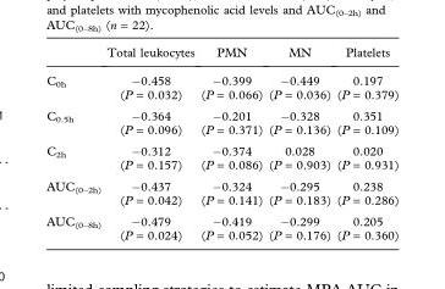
<table><thead><tr><td></td><td>Total leukocytes</td><td>PMN</td><td>MN</td><td>Platelets</td></tr></thead><tbody><tr><td>C<sub>0h</sub></td><td>−0.458 (P = 0.032)</td><td>−0.399 (P = 0.066)</td><td>−0.449 (P = 0.036)</td><td>0.197 (P = 0.379)</td></tr><tr><td>C<sub>0.5h</sub></td><td>−0.364 (P = 0.096)</td><td>−0.201 (P = 0.371)</td><td>−0.328 (P = 0.136)</td><td>0.351 (P = 0.109)</td></tr><tr><td>C<sub>2h</sub></td><td>−0.312 (P = 0.157)</td><td>−0.374 (P = 0.086)</td><td>0.028 (P = 0.903)</td><td>0.020 (P = 0.931)</td></tr><tr><td>AUC<sub>(0–2h)</sub></td><td>−0.437 (P = 0.042)</td><td>−0.324 (P = 0.141)</td><td>−0.295 (P = 0.183)</td><td>0.238 (P = 0.286)</td></tr><tr><td>AUC<sub>(0–8h)</sub></td><td>−0.479 (P = 0.024)</td><td>−0.419 (P = 0.052)</td><td>−0.299 (P = 0.176)</td><td>0.205 (P = 0.360)</td></tr></tbody></table>